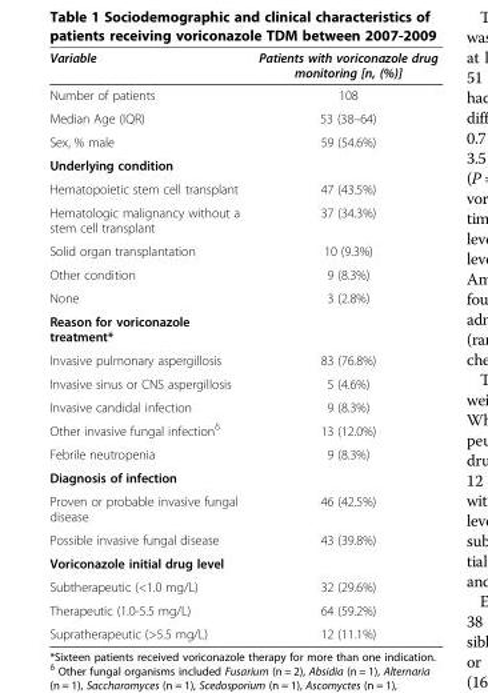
<table><thead><tr><td>Variable</td><td>Patients with voriconazole drug monitoring [n, (%)]</td></tr></thead><tbody><tr><td>Number of patients</td><td>108</td></tr><tr><td>Median Age (IQR)</td><td>53 (38–64)</td></tr><tr><td>Sex, % male</td><td>59 (54.6%)</td></tr><tr><td colspan="2">Underlying condition</td></tr><tr><td>Hematopoietic stem cell transplant</td><td>47 (43.5%)</td></tr><tr><td>Hematologic malignancy without a stem cell transplant</td><td>37 (34.3%)</td></tr><tr><td>Solid organ transplantation</td><td>10 (9.3%)</td></tr><tr><td>Other condition</td><td>9 (8.3%)</td></tr><tr><td>None</td><td>3 (2.8%)</td></tr><tr><td colspan="2">Reason for voriconazole treatment*</td></tr><tr><td>Invasive pulmonary aspergillosis</td><td>83 (76.8%)</td></tr><tr><td>Invasive sinus or CNS aspergillosis</td><td>5 (4.6%)</td></tr><tr><td>Invasive candidal infection</td><td>9 (8.3%)</td></tr><tr><td>Other invasive fungal infection<sup>δ</sup></td><td>13 (12.0%)</td></tr><tr><td>Febrile neutropenia</td><td>9 (8.3%)</td></tr><tr><td colspan="2">Diagnosis of infection</td></tr><tr><td>Proven or probable invasive fungal disease</td><td>46 (42.5%)</td></tr><tr><td>Possible invasive fungal disease</td><td>43 (39.8%)</td></tr><tr><td colspan="2">Voriconazole initial drug level</td></tr><tr><td>Subtherapeutic (&lt;1.0 mg/L)</td><td>32 (29.6%)</td></tr><tr><td>Therapeutic (1.0-5.5 mg/L)</td><td>64 (59.2%)</td></tr><tr><td>Supratherapeutic (&gt;5.5 mg/L)</td><td>12 (11.1%)</td></tr></tbody></table>